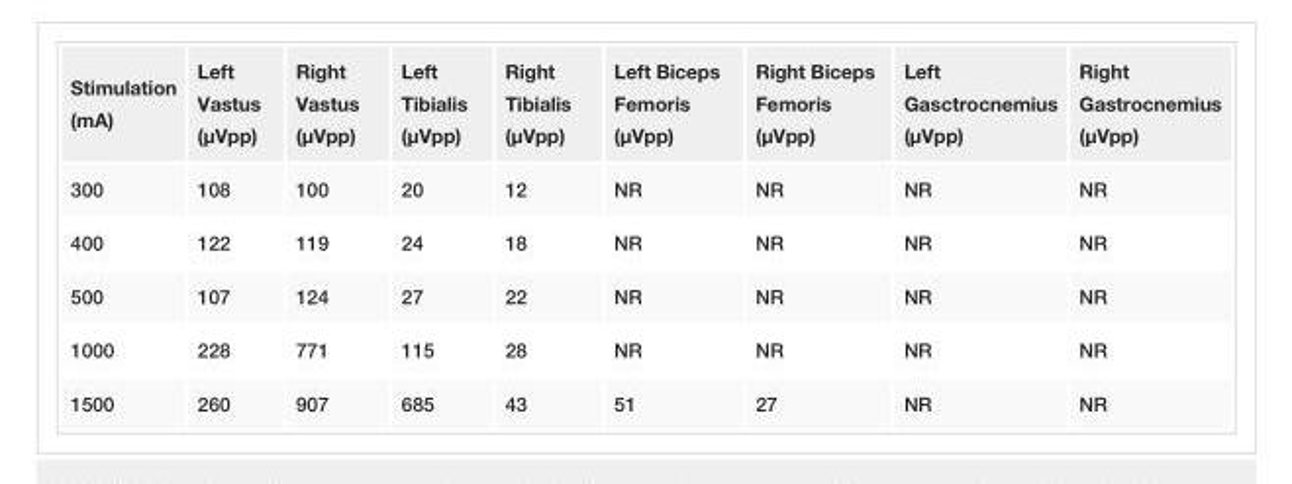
<table><tbody><tr><td>Stimulation (mA)</td><td>Left Vastus (µVpp)</td><td>Right Vastus (µVpp)</td><td>Left Tibialis (µVpp)</td><td>Right Tibialis (µVpp)</td><td>Left Biceps Femoris (µVpp)</td><td>Right Biceps Femoris (µVpp)</td><td>Left Gasctrocnemius (µVpp)</td><td>Right Gastrocnemius (µVpp)</td></tr><tr><td>300</td><td>108</td><td>100</td><td>20</td><td>12</td><td>NR</td><td>NR</td><td>NR</td><td>NR</td></tr><tr><td>400</td><td>122</td><td>119</td><td>24</td><td>18</td><td>NR</td><td>NR</td><td>NR</td><td>NR</td></tr><tr><td>500</td><td>107</td><td>124</td><td>27</td><td>22</td><td>NR</td><td>NR</td><td>NR</td><td>NR</td></tr><tr><td>1000</td><td>228</td><td>771</td><td>115</td><td>28</td><td>NR</td><td>NR</td><td>NR</td><td>NR</td></tr><tr><td>1500</td><td>260</td><td>907</td><td>685</td><td>43</td><td>51</td><td>27</td><td>NR</td><td>NR</td></tr></tbody></table>